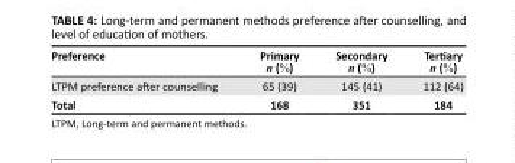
<table><thead><tr><td>Preference</td><td>Primary n (%)</td><td>Secondary n (%)</td><td>Tertiary n (%)</td></tr></thead><tbody><tr><td>LTPM preference after counselling</td><td>65 (39)</td><td>145 (41)</td><td>112 (64)</td></tr><tr><td>Total</td><td>168</td><td>351</td><td>184</td></tr></tbody></table>